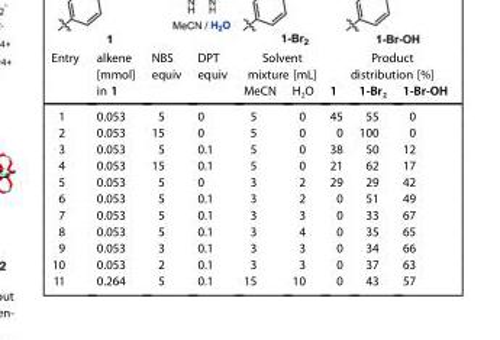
<table><thead><tr><td rowspan="2">Entry</td><td rowspan="2">alkene [mmol] in 1</td><td rowspan="2">NBS equiv</td><td rowspan="2">DPT equiv</td><td colspan="2">Solvent mixture [mL]</td><td colspan="3">Product distribution [%]</td></tr><tr><td>MeCN</td><td>H<sub>2</sub>O</td><td>1</td><td>1-Br<sub>2</sub></td><td>1-Br-OH</td></tr></thead><tbody><tr><td>1</td><td>0.053</td><td>5</td><td>0</td><td>5</td><td>0</td><td>45</td><td>55</td><td>0</td></tr><tr><td>2</td><td>0.053</td><td>15</td><td>0</td><td>5</td><td>0</td><td>0</td><td>100</td><td>0</td></tr><tr><td>3</td><td>0.053</td><td>5</td><td>0.1</td><td>5</td><td>0</td><td>38</td><td>50</td><td>12</td></tr><tr><td>4</td><td>0.053</td><td>15</td><td>0.1</td><td>5</td><td>0</td><td>21</td><td>62</td><td>17</td></tr><tr><td>5</td><td>0.053</td><td>5</td><td>0</td><td>3</td><td>2</td><td>29</td><td>29</td><td>42</td></tr><tr><td>6</td><td>0.053</td><td>5</td><td>0.1</td><td>3</td><td>2</td><td>0</td><td>51</td><td>49</td></tr><tr><td>7</td><td>0.053</td><td>5</td><td>0.1</td><td>3</td><td>3</td><td>0</td><td>33</td><td>67</td></tr><tr><td>8</td><td>0.053</td><td>5</td><td>0.1</td><td>3</td><td>4</td><td>0</td><td>35</td><td>65</td></tr><tr><td>9</td><td>0.053</td><td>3</td><td>0.1</td><td>3</td><td>3</td><td>0</td><td>34</td><td>66</td></tr><tr><td>10</td><td>0.053</td><td>2</td><td>0.1</td><td>3</td><td>3</td><td>0</td><td>37</td><td>63</td></tr><tr><td>11</td><td>0.264</td><td>5</td><td>0.1</td><td>15</td><td>10</td><td>0</td><td>43</td><td>57</td></tr></tbody></table>